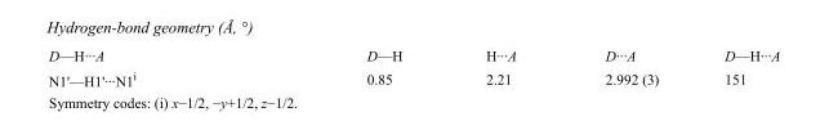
<table><tbody><tr><td>D—H···A</td><td>D—H</td><td>H···A</td><td>D···A</td><td>D—H···A</td></tr><tr><td>N1&#x27;—H1&#x27;···N1<sup>i</sup></td><td>0.85</td><td>2.21</td><td>2.992 (3)</td><td>151</td></tr></tbody></table>